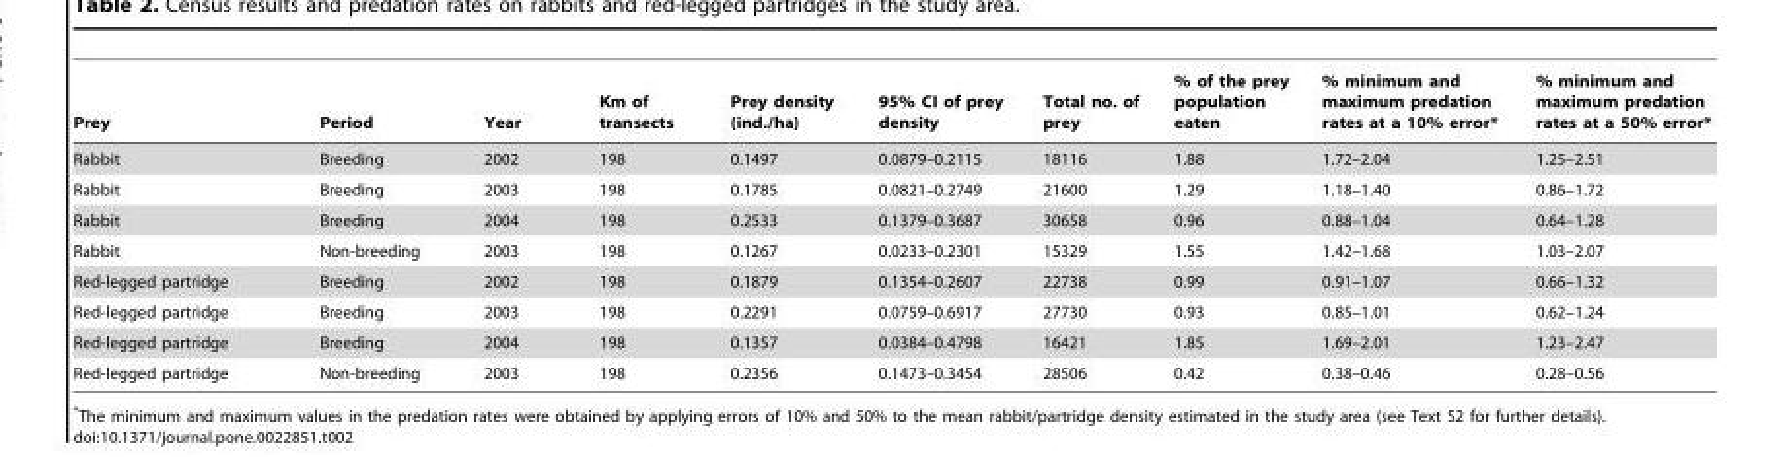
<table><thead><tr><td>Prey</td><td>Period</td><td>Year</td><td>Km of transects</td><td>Prey density (ind./ha)</td><td>95% CI of prey density</td><td>Total no. of prey</td><td>% of the prey population eaten</td><td>% minimum and maximum predation rates at a 10% error*</td><td>% minimum and maximum predation rates at a 50% error*</td></tr></thead><tbody><tr><td>Rabbit</td><td>Breeding</td><td>2002</td><td>198</td><td>0.1497</td><td>0.0879–0.2115</td><td>18116</td><td>1.88</td><td>1.72–2.04</td><td>1.25–2.51</td></tr><tr><td>Rabbit</td><td>Breeding</td><td>2003</td><td>198</td><td>0.1785</td><td>0.0821–0.2749</td><td>21600</td><td>1.29</td><td>1.18–1.40</td><td>0.86–1.72</td></tr><tr><td>Rabbit</td><td>Breeding</td><td>2004</td><td>198</td><td>0.2533</td><td>0.1379–0.3687</td><td>30658</td><td>0.96</td><td>0.88–1.04</td><td>0.64–1.28</td></tr><tr><td>Rabbit</td><td>Non-breeding</td><td>2003</td><td>198</td><td>0.1267</td><td>0.0233–0.2301</td><td>15329</td><td>1.55</td><td>1.42–1.68</td><td>1.03–2.07</td></tr><tr><td>Red-legged partridge</td><td>Breeding</td><td>2002</td><td>198</td><td>0.1879</td><td>0.1354–0.2607</td><td>22738</td><td>0.99</td><td>0.91–1.07</td><td>0.66–1.32</td></tr><tr><td>Red-legged partridge</td><td>Breeding</td><td>2003</td><td>198</td><td>0.2291</td><td>0.0759–0.6917</td><td>27730</td><td>0.93</td><td>0.85–1.01</td><td>0.62–1.24</td></tr><tr><td>Red-legged partridge</td><td>Breeding</td><td>2004</td><td>198</td><td>0.1357</td><td>0.0384–0.4798</td><td>16421</td><td>1.85</td><td>1.69–2.01</td><td>1.23–2.47</td></tr><tr><td>Red-legged partridge</td><td>Non-breeding</td><td>2003</td><td>198</td><td>0.2356</td><td>0.1473–0.3454</td><td>28506</td><td>0.42</td><td>0.38–0.46</td><td>0.28–0.56</td></tr></tbody></table>